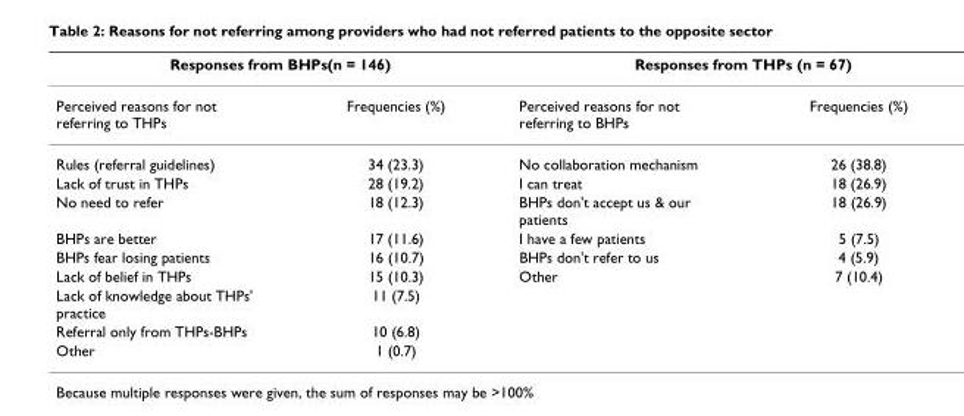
<table><thead><tr><td colspan="2">Responses from BHPs(n = 146)</td><td colspan="2">Responses from THPs (n = 67)</td></tr><tr><td>Perceived reasons for not referring to THPs</td><td>Frequencies (%)</td><td>Perceived reasons for not referring to BHPs</td><td>Frequencies (%)</td></tr></thead><tbody><tr><td>Rules (referral guidelines)</td><td>34 (23.3)</td><td>No collaboration mechanism</td><td>26 (38.8)</td></tr><tr><td>Lack of trust in THPs</td><td>28 (19.2)</td><td>I can treat</td><td>18 (26.9)</td></tr><tr><td>No need to refer</td><td>18 (12.3)</td><td>BHPs don&#x27;t accept us &amp; our patients</td><td>18 (26.9)</td></tr><tr><td>BHPs are better</td><td>17 (11.6)</td><td>I have a few patients</td><td>5 (7.5)</td></tr><tr><td>BHPs fear losing patients</td><td>16 (10.7)</td><td>BHPs don&#x27;t refer to us</td><td>4 (5.9)</td></tr><tr><td>Lack of belief in THPs</td><td>15 (10.3)</td><td>Other</td><td>7 (10.4)</td></tr><tr><td>Lack of knowledge about THPs&#x27; practice</td><td>11 (7.5)</td><td></td><td></td></tr><tr><td>Referral only from THPs-BHPs</td><td>10 (6.8)</td><td></td><td></td></tr><tr><td>Other</td><td>1 (0.7)</td><td></td><td></td></tr></tbody></table>